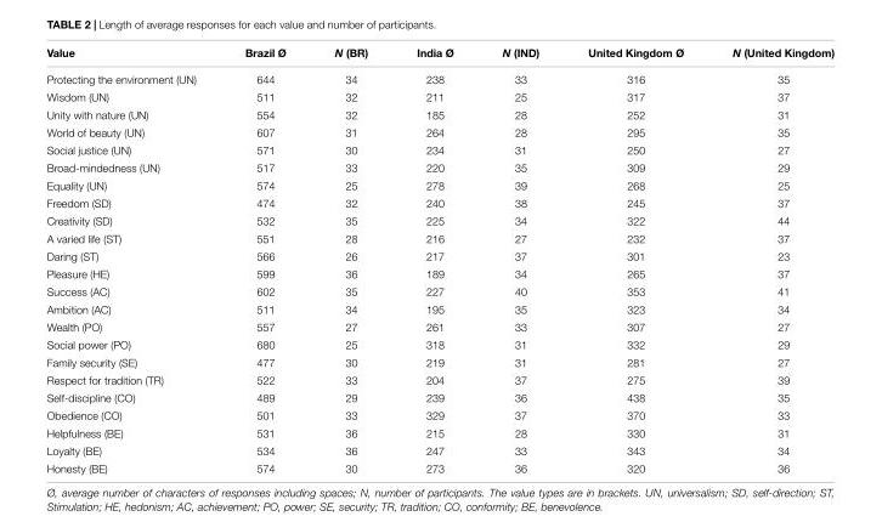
<table><thead><tr><td>Value</td><td>Brazil Ø</td><td>N (BR)</td><td>India Ø</td><td>N (IND)</td><td>United Kingdom Ø</td><td>N (United Kingdom)</td></tr></thead><tbody><tr><td>Protecting the environment (UN)</td><td>644</td><td>34</td><td>238</td><td>33</td><td>316</td><td>35</td></tr><tr><td>Wisdom (UN)</td><td>511</td><td>32</td><td>211</td><td>25</td><td>317</td><td>37</td></tr><tr><td>Unity with nature (UN)</td><td>554</td><td>32</td><td>185</td><td>28</td><td>252</td><td>31</td></tr><tr><td>World of beauty (UN)</td><td>607</td><td>31</td><td>264</td><td>28</td><td>295</td><td>35</td></tr><tr><td>Social justice (UN)</td><td>571</td><td>30</td><td>234</td><td>31</td><td>250</td><td>27</td></tr><tr><td>Broad-mindedness (UN)</td><td>517</td><td>33</td><td>220</td><td>35</td><td>309</td><td>29</td></tr><tr><td>Equality (UN)</td><td>574</td><td>25</td><td>278</td><td>39</td><td>268</td><td>25</td></tr><tr><td>Freedom (SD)</td><td>474</td><td>32</td><td>240</td><td>38</td><td>245</td><td>37</td></tr><tr><td>Creativity (SD)</td><td>532</td><td>35</td><td>225</td><td>34</td><td>322</td><td>44</td></tr><tr><td>A varied life (ST)</td><td>551</td><td>28</td><td>216</td><td>27</td><td>232</td><td>37</td></tr><tr><td>Daring (ST)</td><td>566</td><td>26</td><td>217</td><td>37</td><td>301</td><td>23</td></tr><tr><td>Pleasure (HE)</td><td>599</td><td>36</td><td>189</td><td>34</td><td>265</td><td>37</td></tr><tr><td>Success (AC)</td><td>602</td><td>35</td><td>227</td><td>40</td><td>353</td><td>41</td></tr><tr><td>Ambition (AC)</td><td>511</td><td>34</td><td>195</td><td>35</td><td>323</td><td>34</td></tr><tr><td>Wealth (PO)</td><td>557</td><td>27</td><td>261</td><td>33</td><td>307</td><td>27</td></tr><tr><td>Social power (PO)</td><td>680</td><td>25</td><td>318</td><td>31</td><td>332</td><td>29</td></tr><tr><td>Family security (SE)</td><td>477</td><td>30</td><td>219</td><td>31</td><td>281</td><td>27</td></tr><tr><td>Respect for tradition (TR)</td><td>522</td><td>33</td><td>204</td><td>37</td><td>275</td><td>39</td></tr><tr><td>Self-discipline (CO)</td><td>489</td><td>29</td><td>239</td><td>36</td><td>438</td><td>35</td></tr><tr><td>Obedience (CO)</td><td>501</td><td>33</td><td>329</td><td>37</td><td>370</td><td>33</td></tr><tr><td>Helpfulness (BE)</td><td>531</td><td>36</td><td>215</td><td>28</td><td>330</td><td>31</td></tr><tr><td>Loyalty (BE)</td><td>534</td><td>36</td><td>247</td><td>33</td><td>343</td><td>34</td></tr><tr><td>Honesty (BE)</td><td>574</td><td>30</td><td>273</td><td>36</td><td>320</td><td>36</td></tr></tbody></table>